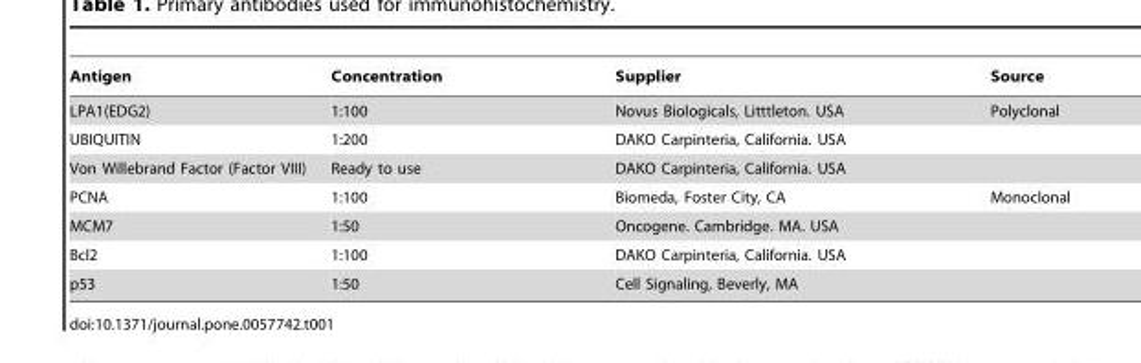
<table><thead><tr><td>Antigen</td><td>Concentration</td><td>Supplier</td><td>Source</td></tr></thead><tbody><tr><td>LPA1(EDG2)</td><td>1:100</td><td>Novus Biologicals, Litttleton. USA</td><td>Polyclonal</td></tr><tr><td>UBIQUITIN</td><td>1:200</td><td>DAKO Carpinteria, California. USA</td><td></td></tr><tr><td>Von Willebrand Factor (Factor VIII)</td><td>Ready to use</td><td>DAKO Carpinteria, California. USA</td><td></td></tr><tr><td>PCNA</td><td>1:100</td><td>Biomeda, Foster City, CA</td><td>Monoclonal</td></tr><tr><td>MCM7</td><td>1:50</td><td>Oncogene. Cambridge. MA. USA</td><td></td></tr><tr><td>Bcl2</td><td>1:100</td><td>DAKO Carpinteria, California. USA</td><td></td></tr><tr><td>p53</td><td>1:50</td><td>Cell Signaling, Beverly, MA</td><td></td></tr></tbody></table>